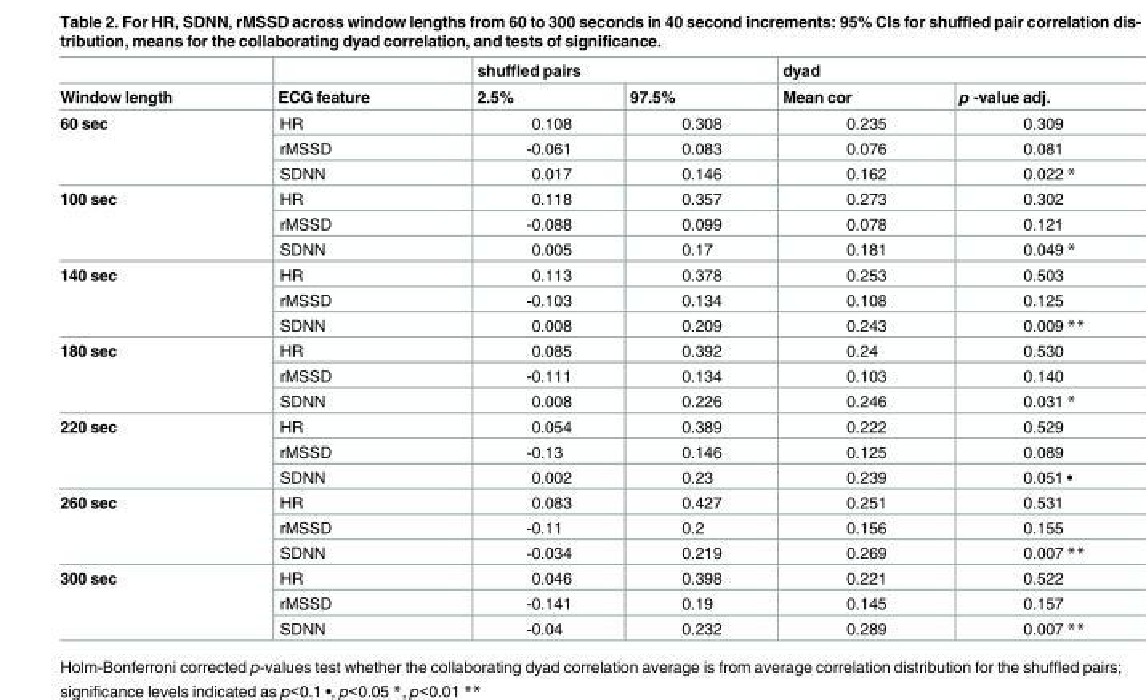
<table><thead><tr><td rowspan="2">Window length</td><td rowspan="2">ECG feature</td><td colspan="2">shuffled pairs</td><td colspan="2">dyad</td></tr><tr><td>2.5%</td><td>97.5%</td><td>Mean cor</td><td>p -value adj.</td></tr></thead><tbody><tr><td rowspan="3">60 sec</td><td>HR</td><td>0.108</td><td>0.308</td><td>0.235</td><td>0.309</td></tr><tr><td>rMSSD</td><td>-0.061</td><td>0.083</td><td>0.076</td><td>0.081</td></tr><tr><td>SDNN</td><td>0.017</td><td>0.146</td><td>0.162</td><td>0.022 *</td></tr><tr><td rowspan="3">100 sec</td><td>HR</td><td>0.118</td><td>0.357</td><td>0.273</td><td>0.302</td></tr><tr><td>rMSSD</td><td>-0.088</td><td>0.099</td><td>0.078</td><td>0.121</td></tr><tr><td>SDNN</td><td>0.005</td><td>0.17</td><td>0.181</td><td>0.049 *</td></tr><tr><td rowspan="3">140 sec</td><td>HR</td><td>0.113</td><td>0.378</td><td>0.253</td><td>0.503</td></tr><tr><td>rMSSD</td><td>-0.103</td><td>0.134</td><td>0.108</td><td>0.125</td></tr><tr><td>SDNN</td><td>0.008</td><td>0.209</td><td>0.243</td><td>0.009 **</td></tr><tr><td rowspan="3">180 sec</td><td>HR</td><td>0.085</td><td>0.392</td><td>0.24</td><td>0.530</td></tr><tr><td>rMSSD</td><td>-0.111</td><td>0.134</td><td>0.103</td><td>0.140</td></tr><tr><td>SDNN</td><td>0.008</td><td>0.226</td><td>0.246</td><td>0.031 *</td></tr><tr><td rowspan="3">220 sec</td><td>HR</td><td>0.054</td><td>0.389</td><td>0.222</td><td>0.529</td></tr><tr><td>rMSSD</td><td>-0.13</td><td>0.146</td><td>0.125</td><td>0.089</td></tr><tr><td>SDNN</td><td>0.002</td><td>0.23</td><td>0.239</td><td>0.051 •</td></tr><tr><td rowspan="3">260 sec</td><td>HR</td><td>0.083</td><td>0.427</td><td>0.251</td><td>0.531</td></tr><tr><td>rMSSD</td><td>-0.11</td><td>0.2</td><td>0.156</td><td>0.155</td></tr><tr><td>SDNN</td><td>-0.034</td><td>0.219</td><td>0.269</td><td>0.007 **</td></tr><tr><td rowspan="3">300 sec</td><td>HR</td><td>0.046</td><td>0.398</td><td>0.221</td><td>0.522</td></tr><tr><td>rMSSD</td><td>-0.141</td><td>0.19</td><td>0.145</td><td>0.157</td></tr><tr><td>SDNN</td><td>-0.04</td><td>0.232</td><td>0.289</td><td>0.007 **</td></tr></tbody></table>